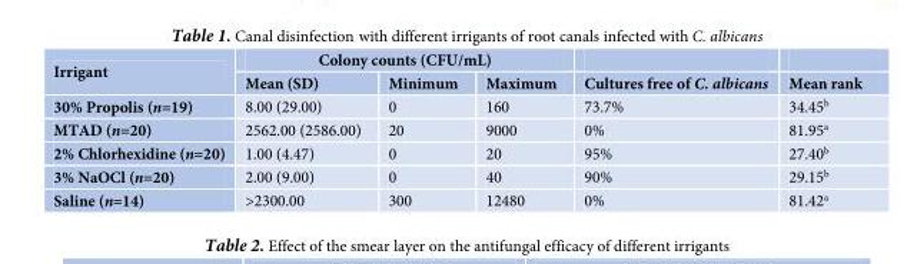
<table><thead><tr><td rowspan="2">Irrigant</td><td colspan="3">Colony counts (CFU/mL)</td><td rowspan="2">Cultures free of C. albicans</td><td rowspan="2">Mean rank</td></tr><tr><td>Mean (SD)</td><td>Minimum</td><td>Maximum</td></tr></thead><tbody><tr><td>30% Propolis (n=19)</td><td>8.00 (29.00)</td><td>0</td><td>160</td><td>73.7%</td><td>34.45<sup>b</sup></td></tr><tr><td>MTAD (n=20)</td><td>2562.00 (2586.00)</td><td>20</td><td>9000</td><td>0%</td><td>81.95<sup>a</sup></td></tr><tr><td>2% Chlorhexidine (n=20)</td><td>1.00 (4.47)</td><td>0</td><td>20</td><td>95%</td><td>27.40<sup>b</sup></td></tr><tr><td>3% NaOCl (n=20)</td><td>2.00 (9.00)</td><td>0</td><td>40</td><td>90%</td><td>29.15<sup>b</sup></td></tr><tr><td>Saline (n=14)</td><td>&gt;2300.00</td><td>300</td><td>12480</td><td>0%</td><td>81.42<sup>a</sup></td></tr></tbody></table>